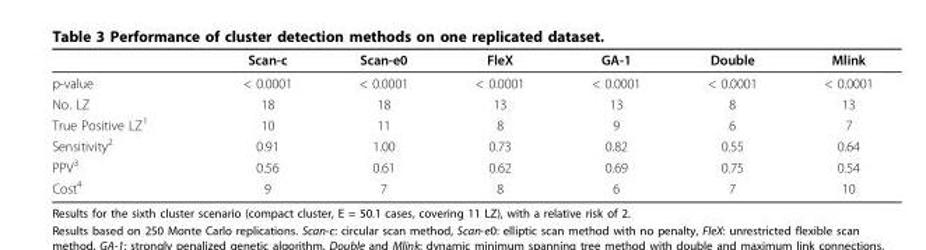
<table><thead><tr><td></td><td>Scan-c</td><td>Scan-e0</td><td>FleX</td><td>GA-1</td><td>Double</td><td>Mlink</td></tr></thead><tbody><tr><td>p-value</td><td>&lt; 0.0001</td><td>&lt; 0.0001</td><td>&lt; 0.0001</td><td>&lt; 0.0001</td><td>&lt; 0.0001</td><td>&lt; 0.0001</td></tr><tr><td>No. LZ</td><td>18</td><td>18</td><td>13</td><td>13</td><td>8</td><td>13</td></tr><tr><td>True Positive LZ<sup>1</sup></td><td>10</td><td>11</td><td>8</td><td>9</td><td>6</td><td>7</td></tr><tr><td>Sensitivity<sup>2</sup></td><td>0.91</td><td>1.00</td><td>0.73</td><td>0.82</td><td>0.55</td><td>0.64</td></tr><tr><td>PPV<sup>3</sup></td><td>0.56</td><td>0.61</td><td>0.62</td><td>0.69</td><td>0.75</td><td>0.54</td></tr><tr><td>Cost<sup>4</sup></td><td>9</td><td>7</td><td>8</td><td>6</td><td>7</td><td>10</td></tr></tbody></table>